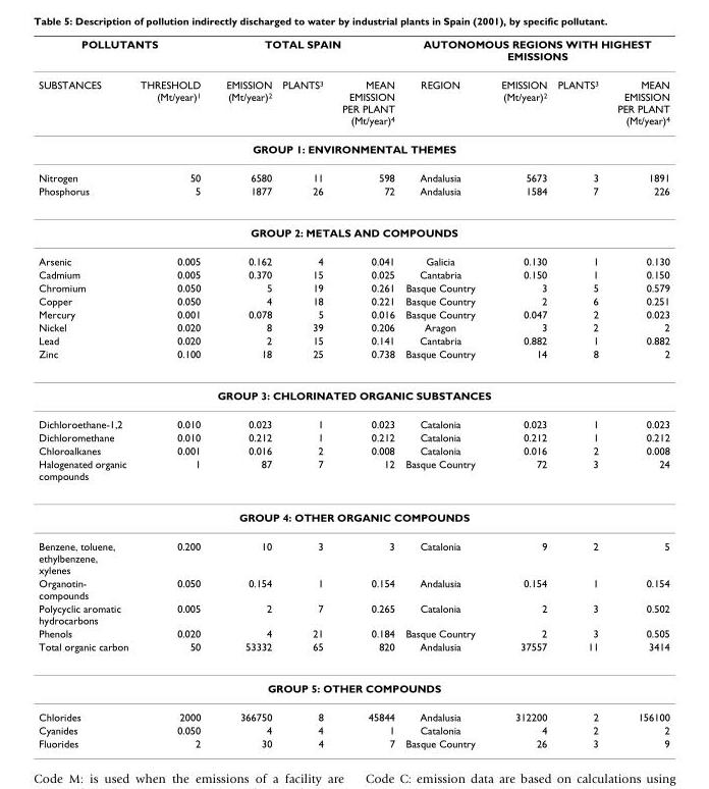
<table><thead><tr><td colspan="2">POLLUTANTS</td><td colspan="3">TOTAL SPAIN</td><td colspan="4">AUTONOMOUS REGIONS WITH HIGHEST EMISSIONS</td></tr><tr><td>SUBSTANCES</td><td>THRESHOLD (Mt/year)<sup>1</sup></td><td>EMISSION (Mt/year)<sup>2</sup></td><td>PLANTS<sup>3</sup></td><td>MEAN EMISSION PER PLANT (Mt/year)<sup>4</sup></td><td>REGION</td><td>EMISSION (Mt/year)<sup>2</sup></td><td>PLANTS<sup>3</sup></td><td>MEAN EMISSION PER PLANT (Mt/year)<sup>4</sup></td></tr></thead><tbody><tr><td colspan="9">GROUP 1: ENVIRONMENTAL THEMES</td></tr><tr><td>Nitrogen</td><td>50</td><td>6580</td><td>11</td><td>598</td><td>Andalusia</td><td>5673</td><td>3</td><td>1891</td></tr><tr><td>Phosphorus</td><td>5</td><td>1877</td><td>26</td><td>72</td><td>Andalusia</td><td>1584</td><td>7</td><td>226</td></tr><tr><td colspan="9">GROUP 2: METALS AND COMPOUNDS</td></tr><tr><td>Arsenic</td><td>0.005</td><td>0.162</td><td>4</td><td>0.041</td><td>Galicia</td><td>0.130</td><td>1</td><td>0.130</td></tr><tr><td>Cadmium</td><td>0.005</td><td>0.370</td><td>15</td><td>0.025</td><td>Cantabria</td><td>0.150</td><td>1</td><td>0.150</td></tr><tr><td>Chromium</td><td>0.050</td><td>5</td><td>19</td><td>0.261</td><td>Basque Country</td><td>3</td><td>5</td><td>0.579</td></tr><tr><td>Copper</td><td>0.050</td><td>4</td><td>18</td><td>0.221</td><td>Basque Country</td><td>2</td><td>6</td><td>0.251</td></tr><tr><td>Mercury</td><td>0.001</td><td>0.078</td><td>5</td><td>0.016</td><td>Basque Country</td><td>0.047</td><td>2</td><td>0.023</td></tr><tr><td>Nickel</td><td>0.020</td><td>8</td><td>39</td><td>0.206</td><td>Aragon</td><td>3</td><td>2</td><td>2</td></tr><tr><td>Lead</td><td>0.020</td><td>2</td><td>15</td><td>0.141</td><td>Cantabria</td><td>0.882</td><td>1</td><td>0.882</td></tr><tr><td>Zinc</td><td>0.100</td><td>18</td><td>25</td><td>0.738</td><td>Basque Country</td><td>14</td><td>8</td><td>2</td></tr><tr><td colspan="9">GROUP 3: CHLORINATED ORGANIC SUBSTANCES</td></tr><tr><td>Dichloroethane-1,2</td><td>0.010</td><td>0.023</td><td>1</td><td>0.023</td><td>Catalonia</td><td>0.023</td><td>1</td><td>0.023</td></tr><tr><td>Dichloromethane</td><td>0.010</td><td>0.212</td><td>1</td><td>0.212</td><td>Catalonia</td><td>0.212</td><td>1</td><td>0.212</td></tr><tr><td>Chloroalkanes</td><td>0.001</td><td>0.016</td><td>2</td><td>0.008</td><td>Catalonia</td><td>0.016</td><td>2</td><td>0.008</td></tr><tr><td>Halogenated organic compounds</td><td>1</td><td>87</td><td>7</td><td>12</td><td>Basque Country</td><td>72</td><td>3</td><td>24</td></tr><tr><td colspan="9">GROUP 4: OTHER ORGANIC COMPOUNDS</td></tr><tr><td>Benzene, toluene, ethylbenzene, xylenes</td><td>0.200</td><td>10</td><td>3</td><td>3</td><td>Catalonia</td><td>9</td><td>2</td><td>5</td></tr><tr><td>Organotin- compounds</td><td>0.050</td><td>0.154</td><td>1</td><td>0.154</td><td>Andalusia</td><td>0.154</td><td>1</td><td>0.154</td></tr><tr><td>Polycyclic aromatic hydrocarbons</td><td>0.005</td><td>2</td><td>7</td><td>0.265</td><td>Catalonia</td><td>2</td><td>3</td><td>0.502</td></tr><tr><td>Phenols</td><td>0.020</td><td>4</td><td>21</td><td>0.184</td><td>Basque Country</td><td>2</td><td>3</td><td>0.505</td></tr><tr><td>Total organic carbon</td><td>50</td><td>53332</td><td>65</td><td>820</td><td>Andalusia</td><td>37557</td><td>11</td><td>3414</td></tr><tr><td colspan="9">GROUP 5: OTHER COMPOUNDS</td></tr><tr><td>Chlorides</td><td>2000</td><td>366750</td><td>8</td><td>45844</td><td>Andalusia</td><td>312200</td><td>2</td><td>156100</td></tr><tr><td>Cyanides</td><td>0.050</td><td>4</td><td>4</td><td>1</td><td>Catalonia</td><td>4</td><td>2</td><td>2</td></tr><tr><td>Fluorides</td><td>2</td><td>30</td><td>4</td><td>7</td><td>Basque Country</td><td>26</td><td>3</td><td>9</td></tr></tbody></table>